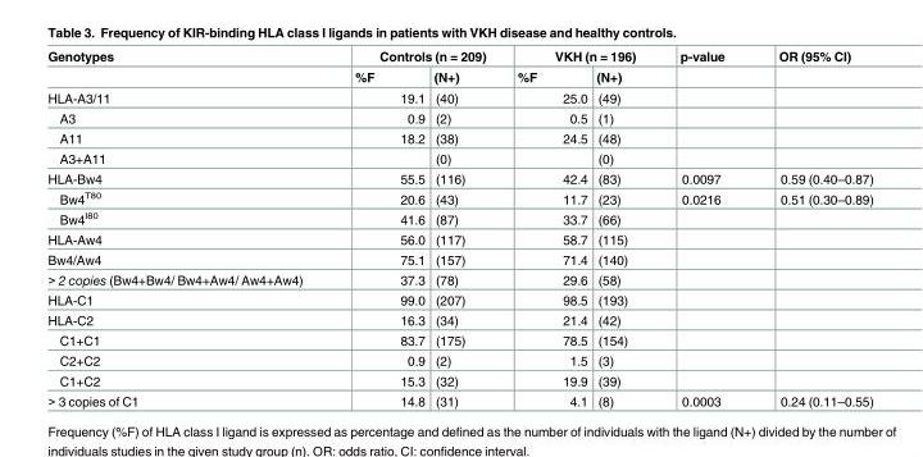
<table><thead><tr><td rowspan="2">Genotypes</td><td colspan="2">Controls (n = 209)</td><td colspan="2">VKH (n = 196)</td><td rowspan="2">p-value</td><td rowspan="2">OR (95% CI)</td></tr><tr><td>%F</td><td>(N+)</td><td>%F</td><td>(N+)</td></tr></thead><tbody><tr><td>HLA-A3/11</td><td>19.1</td><td>(40)</td><td>25.0</td><td>(49)</td><td></td><td></td></tr><tr><td>A3</td><td>0.9</td><td>(2)</td><td>0.5</td><td>(1)</td><td></td><td></td></tr><tr><td>A11</td><td>18.2</td><td>(38)</td><td>24.5</td><td>(48)</td><td></td><td></td></tr><tr><td>A3+A11</td><td></td><td>(0)</td><td></td><td>(0)</td><td></td><td></td></tr><tr><td>HLA-Bw4</td><td>55.5</td><td>(116)</td><td>42.4</td><td>(83)</td><td>0.0097</td><td>0.59 (0.40–0.87)</td></tr><tr><td>Bw4<sup>T80</sup></td><td>20.6</td><td>(43)</td><td>11.7</td><td>(23)</td><td>0.0216</td><td>0.51 (0.30–0.89)</td></tr><tr><td>Bw4<sup>I80</sup></td><td>41.6</td><td>(87)</td><td>33.7</td><td>(66)</td><td></td><td></td></tr><tr><td>HLA-Aw4</td><td>56.0</td><td>(117)</td><td>58.7</td><td>(115)</td><td></td><td></td></tr><tr><td>Bw4/Aw4</td><td>75.1</td><td>(157)</td><td>71.4</td><td>(140)</td><td></td><td></td></tr><tr><td>&gt; 2 copies (Bw4+Bw4/ Bw4+Aw4/ Aw4+Aw4)</td><td>37.3</td><td>(78)</td><td>29.6</td><td>(58)</td><td></td><td></td></tr><tr><td>HLA-C1</td><td>99.0</td><td>(207)</td><td>98.5</td><td>(193)</td><td></td><td></td></tr><tr><td>HLA-C2</td><td>16.3</td><td>(34)</td><td>21.4</td><td>(42)</td><td></td><td></td></tr><tr><td>C1+C1</td><td>83.7</td><td>(175)</td><td>78.5</td><td>(154)</td><td></td><td></td></tr><tr><td>C2+C2</td><td>0.9</td><td>(2)</td><td>1.5</td><td>(3)</td><td></td><td></td></tr><tr><td>C1+C2</td><td>15.3</td><td>(32)</td><td>19.9</td><td>(39)</td><td></td><td></td></tr><tr><td>&gt; 3 copies of C1</td><td>14.8</td><td>(31)</td><td>4.1</td><td>(8)</td><td>0.0003</td><td>0.24 (0.11–0.55)</td></tr></tbody></table>